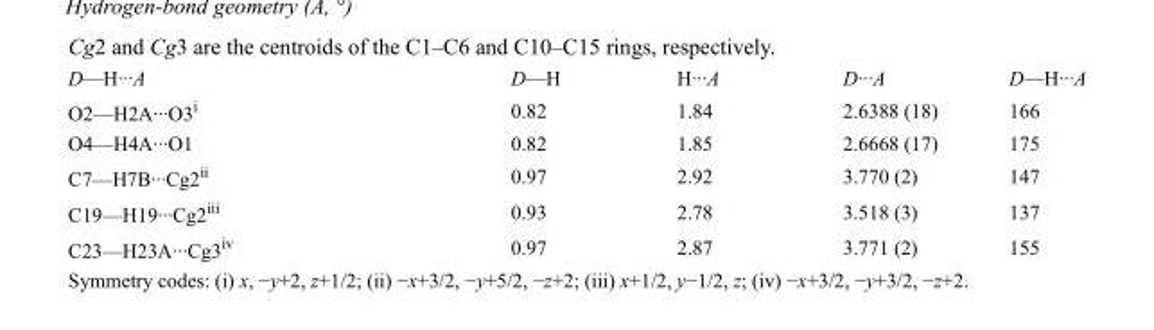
<table><tbody><tr><td>D—H···A</td><td>D—H</td><td>H···A</td><td>D···A</td><td>D—H···A</td></tr><tr><td>O2—H2A···O3<sup>i</sup></td><td>0.82</td><td>1.84</td><td>2.6388 (18)</td><td>166</td></tr><tr><td>O4—H4A···O1</td><td>0.82</td><td>1.85</td><td>2.6668 (17)</td><td>175</td></tr><tr><td>C7—H7B···Cg2<sup>ii</sup></td><td>0.97</td><td>2.92</td><td>3.770 (2)</td><td>147</td></tr><tr><td>C19—H19···Cg2<sup>iii</sup></td><td>0.93</td><td>2.78</td><td>3.518 (3)</td><td>137</td></tr><tr><td>C23—H23A···Cg3<sup>iv</sup></td><td>0.97</td><td>2.87</td><td>3.771 (2)</td><td>155</td></tr></tbody></table>